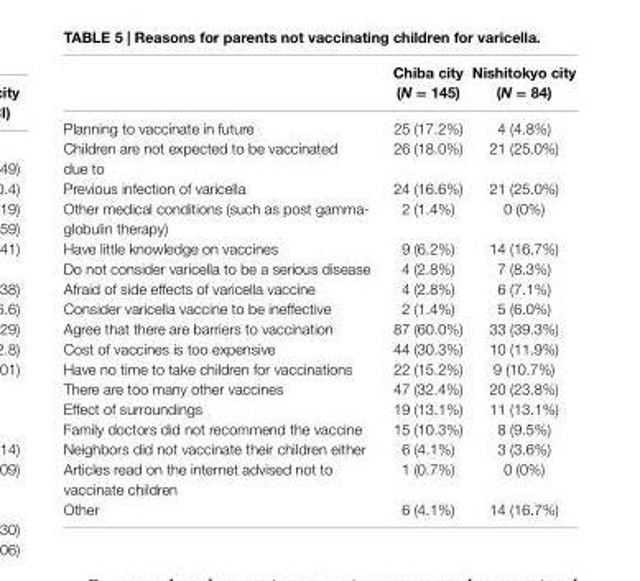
<table><thead><tr><td></td><td>chiba city (N = 145)</td><td>nishitokyo city (N = 84)</td></tr></thead><tbody><tr><td>Planning to vaccinate in future</td><td>25 (17.2%)</td><td>4 (4.8%)</td></tr><tr><td>Children are not expected to be vaccinated due to</td><td>26 (18.0%)</td><td>21 (25.0%)</td></tr><tr><td>Previous infection of varicella</td><td>24 (16.6%)</td><td>21 (25.0%)</td></tr><tr><td>Other medical conditions (such as post gamma- globulin therapy)</td><td>2 (1.4%)</td><td>0 (0%)</td></tr><tr><td>Have little knowledge on vaccines</td><td>9 (6.2%)</td><td>14 (16.7%)</td></tr><tr><td>Do not consider varicella to be a serious disease</td><td>4 (2.8%)</td><td>7 (8.3%)</td></tr><tr><td>Afraid of side effects of varicella vaccine</td><td>4 (2.8%)</td><td>6 (7.1%)</td></tr><tr><td>Consider varicella vaccine to be ineffective</td><td>2 (1.4%)</td><td>5 (6.0%)</td></tr><tr><td>Agree that there are barriers to vaccination</td><td>87 (60.0%)</td><td>33 (39.3%)</td></tr><tr><td>Cost of vaccines is too expensive</td><td>44 (30.3%)</td><td>10 (11.9%)</td></tr><tr><td>Have no time to take children for vaccinations</td><td>22 (15.2%)</td><td>9 (10.7%)</td></tr><tr><td>There are too many other vaccines</td><td>47 (32.4%)</td><td>20 (23.8%)</td></tr><tr><td>Effect of surroundings</td><td>19 (13.1%)</td><td>11 (13.1%)</td></tr><tr><td>Family doctors did not recommend the vaccine</td><td>15 (10.3%)</td><td>8 (9.5%)</td></tr><tr><td>Neighbors did not vaccinate their children either</td><td>6 (4.1%)</td><td>3 (3.6%)</td></tr><tr><td>Articles read on the internet advised not to vaccinate children</td><td>1 (0.7%)</td><td>0 (0%)</td></tr><tr><td>Other</td><td>6 (4.1%)</td><td>14 (16.7%)</td></tr></tbody></table>